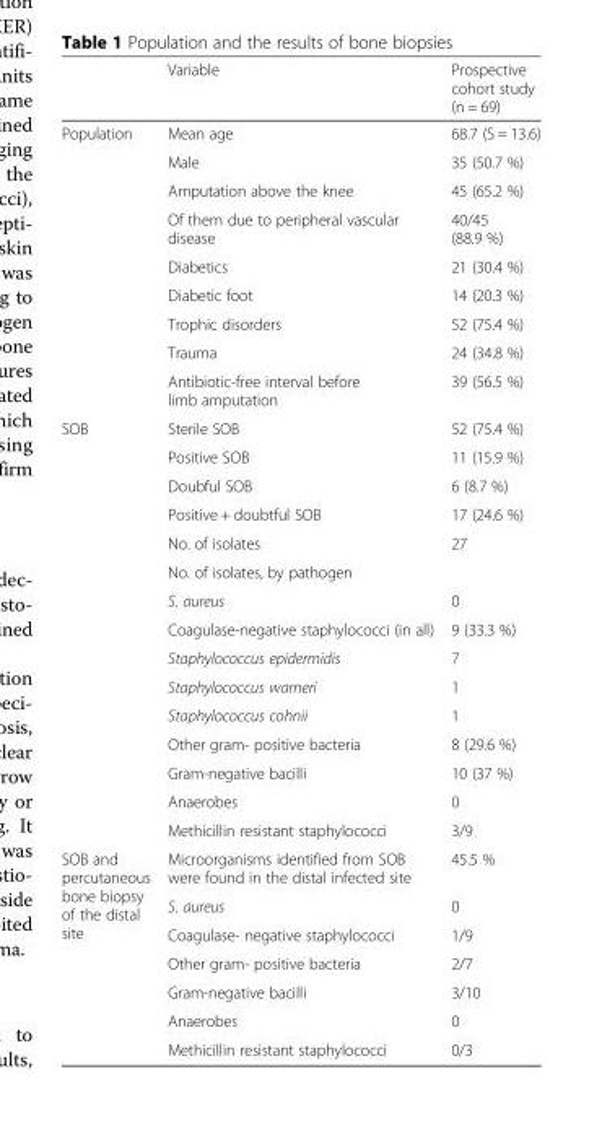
<table><thead><tr><td></td><td>Variable</td><td>Prospective cohort study (n = 69)</td></tr></thead><tbody><tr><td rowspan="9">Population</td><td>Mean age</td><td>68.7 (S = 13.6)</td></tr><tr><td>Male</td><td>35 (50.7 %)</td></tr><tr><td>Amputation above the knee</td><td>45 (65.2 %)</td></tr><tr><td>Of them due to peripheral vascular disease</td><td>40/45 (88.9 %)</td></tr><tr><td>Diabetics</td><td>21 (30.4 %)</td></tr><tr><td>Diabetic foot</td><td>14 (20.3 %)</td></tr><tr><td>Trophic disorders</td><td>52 (75.4 %)</td></tr><tr><td>Trauma</td><td>24 (34.8 %)</td></tr><tr><td>Antibiotic-free interval before limb amputation</td><td>39 (56.5 %)</td></tr><tr><td rowspan="15">SOB</td><td>Sterile SOB</td><td>52 (75.4 %)</td></tr><tr><td>Positive SOB</td><td>11 (15.9 %)</td></tr><tr><td>Doubful SOB</td><td>6 (8.7 %)</td></tr><tr><td>Positive + doubtful SOB</td><td>17 (24.6 %)</td></tr><tr><td>No. of isolates</td><td>27</td></tr><tr><td>No. of isolates, by pathogen</td><td></td></tr><tr><td>S. aureus</td><td>0</td></tr><tr><td>Coagulase-negative staphylococci (in all)</td><td>9 (33.3 %)</td></tr><tr><td>Staphylococcus epidermidis</td><td>7</td></tr><tr><td>Staphylococcus warneri</td><td>1</td></tr><tr><td>Staphylococcus cohnii</td><td>1</td></tr><tr><td>Other gram- positive bacteria</td><td>8 (29.6 %)</td></tr><tr><td>Gram-negative bacilli</td><td>10 (37 %)</td></tr><tr><td>Anaerobes</td><td>0</td></tr><tr><td>Methicillin resistant staphylococci</td><td>3/9</td></tr><tr><td rowspan="7">SOB and percutaneous bone biopsy of the distal site</td><td>Microorganisms identified from SOB were found in the distal infected site</td><td>45.5 %</td></tr><tr><td>S. aureus</td><td>0</td></tr><tr><td>Coagulase- negative staphylococci</td><td>1/9</td></tr><tr><td>Other gram- positive bacteria</td><td>2/7</td></tr><tr><td>Gram-negative bacilli</td><td>3/10</td></tr><tr><td>Anaerobes</td><td>0</td></tr><tr><td>Methicillin resistant staphylococci</td><td>0/3</td></tr></tbody></table>